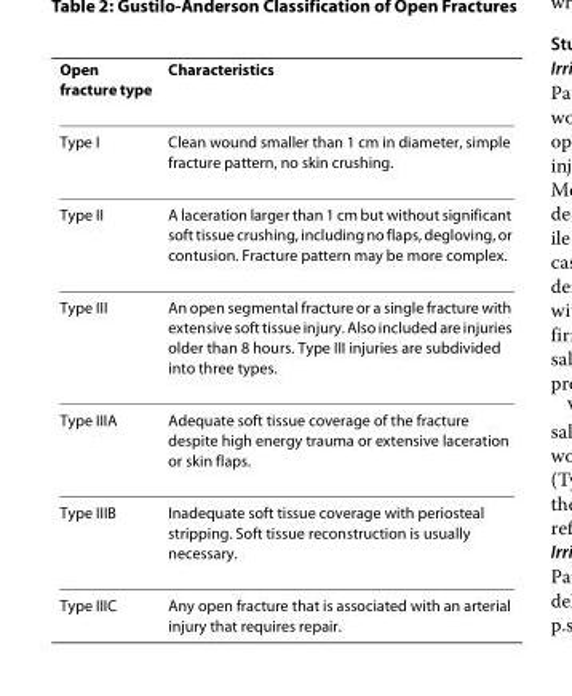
<table><thead><tr><td>Open fracture type</td><td>Characteristics</td></tr></thead><tbody><tr><td>Type I</td><td>Clean wound smaller than 1 cm in diameter, simple fracture pattern, no skin crushing.</td></tr><tr><td>Type II</td><td>A laceration larger than 1 cm but without significant soft tissue crushing, including no flaps, degloving, or contusion. Fracture pattern may be more complex.</td></tr><tr><td>Type III</td><td>An open segmental fracture or a single fracture with extensive soft tissue injury. Also included are injuries older than 8 hours. Type III injuries are subdivided into three types.</td></tr><tr><td>Type IIIA</td><td>Adequate soft tissue coverage of the fracture despite high energy trauma or extensive laceration or skin flaps.</td></tr><tr><td>Type IIIB</td><td>Inadequate soft tissue coverage with periosteal stripping. Soft tissue reconstruction is usually necessary.</td></tr><tr><td>Type IIIC</td><td>Any open fracture that is associated with an arterial injury that requires repair.</td></tr></tbody></table>